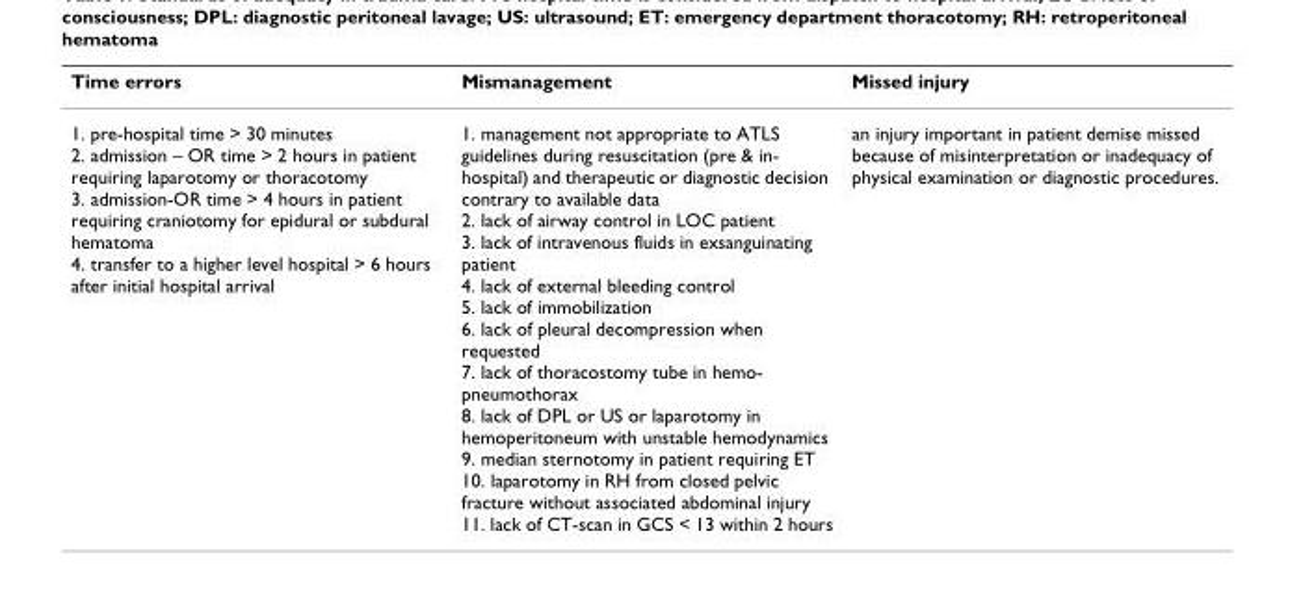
<table><thead><tr><td>Time errors</td><td>Mismanagement</td><td>Missed injury</td></tr></thead><tbody><tr><td>1. pre-hospital time &gt; 30 minutes 2. admission – OR time &gt; 2 hours in patient requiring laparotomy or thoracotomy 3. admission-OR time &gt; 4 hours in patient requiring craniotomy for epidural or subdural hematoma 4. transfer to a higher level hospital &gt; 6 hours after initial hospital arrival</td><td>1. management not appropriate to ATLS guidelines during resuscitation (pre &amp; in- hospital) and therapeutic or diagnostic decision contrary to available data 2. lack of airway control in LOC patient 3. lack of intravenous fluids in exsanguinating patient 4. lack of external bleeding control 5. lack of immobilization 6. lack of pleural decompression when requested 7. lack of thoracostomy tube in hemo- pneumothorax 8. lack of DPL or US or laparotomy in hemoperitoneum with unstable hemodynamics 9. median sternotomy in patient requiring ET 10. laparotomy in RH from closed pelvic fracture without associated abdominal injury 11. lack of CT-scan in GCS &lt; 13 within 2 hours</td><td>an injury important in patient demise missed because of misinterpretation or inadequacy of physical examination or diagnostic procedures.</td></tr></tbody></table>